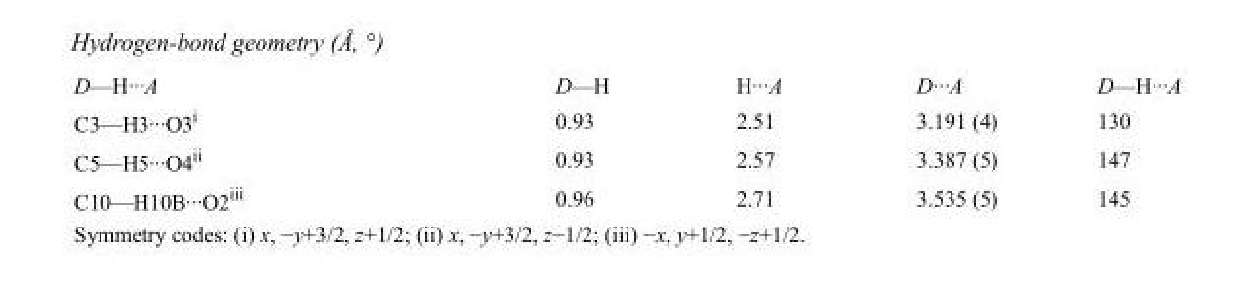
<table><tbody><tr><td>D—H···A</td><td>D—H</td><td>H···A</td><td>D···A</td><td>D—H···A</td></tr><tr><td>C3—H3···O3<sup>i</sup></td><td>0.93</td><td>2.51</td><td>3.191 (4)</td><td>130</td></tr><tr><td>C5—H5···O4<sup>ii</sup></td><td>0.93</td><td>2.57</td><td>3.387 (5)</td><td>147</td></tr><tr><td>C10—H10B···O2<sup>iii</sup></td><td>0.96</td><td>2.71</td><td>3.535 (5)</td><td>145</td></tr></tbody></table>